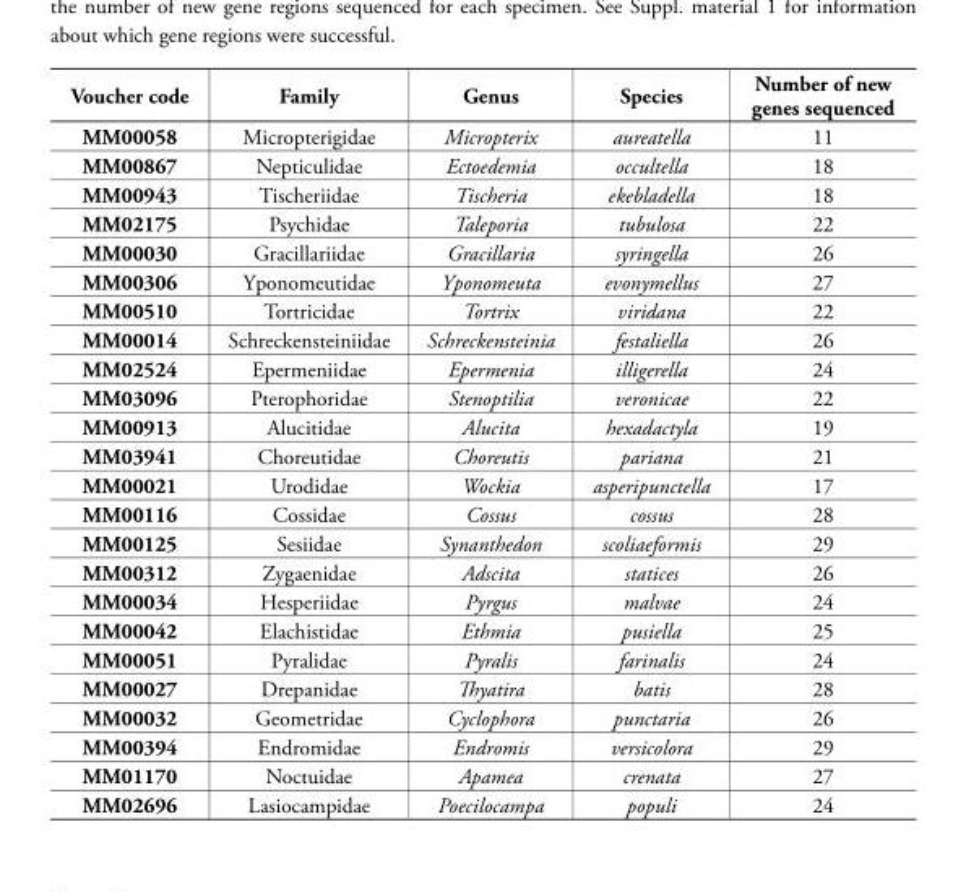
<table><thead><tr><td>Voucher code</td><td>Family</td><td>Genus</td><td>Species</td><td>Number of new genes sequenced</td></tr></thead><tbody><tr><td>MM00058</td><td>Micropterigidae</td><td>Micropterix</td><td>aureatella</td><td>11</td></tr><tr><td>MM00867</td><td>Nepticulidae</td><td>Ectoedemia</td><td>occultella</td><td>18</td></tr><tr><td>MM00943</td><td>Tischeriidae</td><td>Tischeria</td><td>ekebladella</td><td>18</td></tr><tr><td>MM02175</td><td>Psychidae</td><td>Taleporia</td><td>tubulosa</td><td>22</td></tr><tr><td>MM00030</td><td>Gracillariidae</td><td>Gracillaria</td><td>syringella</td><td>26</td></tr><tr><td>MM00306</td><td>Yponomeutidae</td><td>Yponomeuta</td><td>evonymellus</td><td>27</td></tr><tr><td>MM00510</td><td>Tortricidae</td><td>Tortrix</td><td>viridana</td><td>22</td></tr><tr><td>MM00014</td><td>Schreckensteiniidae</td><td>Schreckensteinia</td><td>festaliella</td><td>26</td></tr><tr><td>MM02524</td><td>Epermeniidae</td><td>Epermenia</td><td>illigerella</td><td>24</td></tr><tr><td>MM03096</td><td>Pterophoridae</td><td>Stenoptilia</td><td>veronicae</td><td>22</td></tr><tr><td>MM00913</td><td>Alucitidae</td><td>Alucita</td><td>hexadactyla</td><td>19</td></tr><tr><td>MM03941</td><td>Choreutidae</td><td>Choreutis</td><td>pariana</td><td>21</td></tr><tr><td>MM00021</td><td>Urodidae</td><td>Wockia</td><td>asperipunctella</td><td>17</td></tr><tr><td>MM00116</td><td>Cossidae</td><td>Cossus</td><td>cossus</td><td>28</td></tr><tr><td>MM00125</td><td>Sesiidae</td><td>Synanthedon</td><td>scoliaeformis</td><td>29</td></tr><tr><td>MM00312</td><td>Zygaenidae</td><td>Adscita</td><td>statices</td><td>26</td></tr><tr><td>MM00034</td><td>Hesperiidae</td><td>Pyrgus</td><td>malvae</td><td>24</td></tr><tr><td>MM00042</td><td>Elachistidae</td><td>Ethmia</td><td>pusiella</td><td>25</td></tr><tr><td>MM00051</td><td>Pyralidae</td><td>Pyralis</td><td>farinalis</td><td>24</td></tr><tr><td>MM00027</td><td>Drepanidae</td><td>Thyatira</td><td>batis</td><td>28</td></tr><tr><td>MM00032</td><td>Geometridae</td><td>Cyclophora</td><td>punctaria</td><td>26</td></tr><tr><td>MM00394</td><td>Endromidae</td><td>Endromis</td><td>versicolora</td><td>29</td></tr><tr><td>MM01170</td><td>Noctuidae</td><td>Apamea</td><td>crenata</td><td>27</td></tr><tr><td>MM02696</td><td>Lasiocampidae</td><td>Poecilocampa</td><td>populi</td><td>24</td></tr></tbody></table>